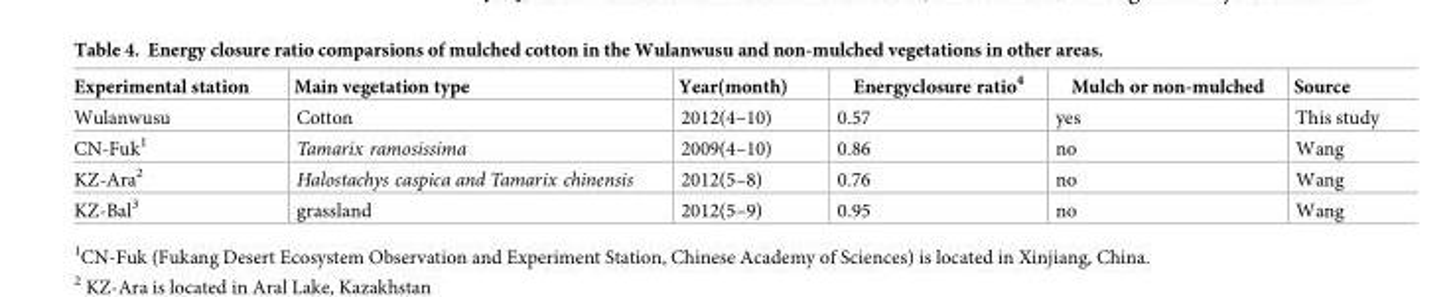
<table><thead><tr><td>Experimental station</td><td>Main vegetation type</td><td>Year(month)</td><td>Energyclosure ratio<sup>4</sup></td><td>Mulch or non-mulched</td><td>Source</td></tr></thead><tbody><tr><td>Wulanwusu</td><td>Cotton</td><td>2012(4–10)</td><td>0.57</td><td>yes</td><td>This study</td></tr><tr><td>CN-Fuk<sup>1</sup></td><td>Tamarix ramosissima</td><td>2009(4–10)</td><td>0.86</td><td>no</td><td>Wang</td></tr><tr><td>KZ-Ara<sup>2</sup></td><td>Halostachys caspica and Tamarix chinensis</td><td>2012(5–8)</td><td>0.76</td><td>no</td><td>Wang</td></tr><tr><td>KZ-Bal<sup>3</sup></td><td>grassland</td><td>2012(5–9)</td><td>0.95</td><td>no</td><td>Wang</td></tr></tbody></table>